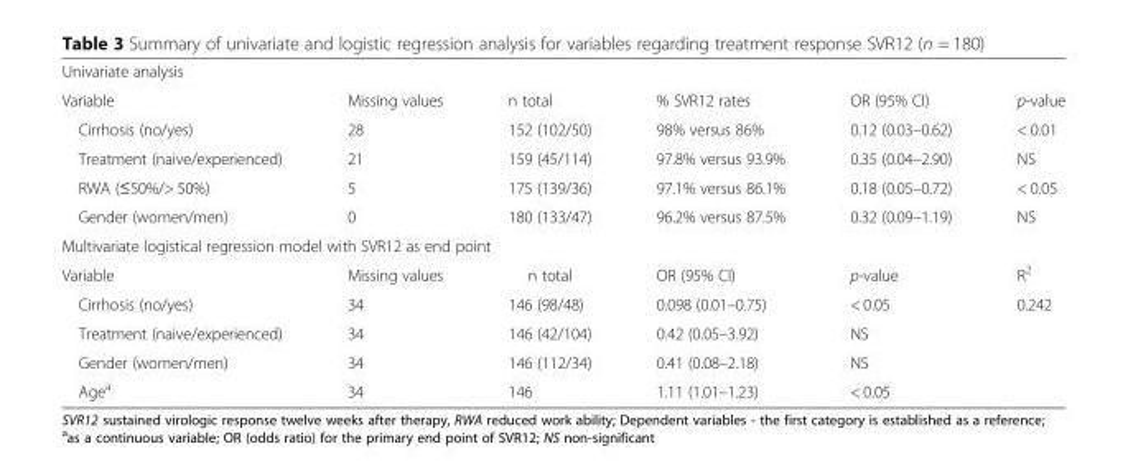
<table><tbody><tr><td colspan="6">Univariate analysis</td></tr><tr><td>Variable</td><td>Missing values</td><td>n total</td><td>% SVR12 rates</td><td>OR (95% CI)</td><td>p-value</td></tr><tr><td>Cirrhosis (no/yes)</td><td>28</td><td>152 (102/50)</td><td>98% versus 86%</td><td>0.12 (0.03–0.62)</td><td>&lt; 0.01</td></tr><tr><td>Treatment (naive/experienced)</td><td>21</td><td>159 (45/114)</td><td>97.8% versus 93.9%</td><td>0.35 (0.04–2.90)</td><td>NS</td></tr><tr><td>RWA (≤50%/&gt; 50%)</td><td>5</td><td>175 (139/36)</td><td>97.1% versus 86.1%</td><td>0.18 (0.05–0.72)</td><td>&lt; 0.05</td></tr><tr><td>Gender (women/men)</td><td>0</td><td>180 (133/47)</td><td>96.2% versus 87.5%</td><td>0.32 (0.09–1.19)</td><td>NS</td></tr><tr><td colspan="6">Multivariate logistical regression model with SVR12 as end point</td></tr><tr><td>Variable</td><td>Missing values</td><td>n total</td><td>OR (95% CI)</td><td>p-value</td><td>R<sup>2</sup></td></tr><tr><td>Cirrhosis (no/yes)</td><td>34</td><td>146 (98/48)</td><td>0.098 (0.01–0.75)</td><td>&lt; 0.05</td><td rowspan="4">0.242</td></tr><tr><td>Treatment (naive/experienced)</td><td>34</td><td>146 (42/104)</td><td>0.42 (0.05–3.92)</td><td>NS</td></tr><tr><td>Gender (women/men)</td><td>34</td><td>146 (112/34)</td><td>0.41 (0.08–2.18)</td><td>NS</td></tr><tr><td>Age<sup>a</sup></td><td>34</td><td>146</td><td>1.11 (1.01–1.23)</td><td>&lt; 0.05</td></tr></tbody></table>